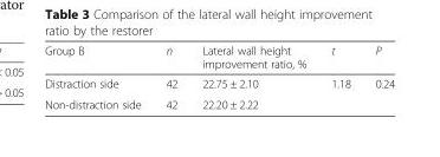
<table><thead><tr><td>Group B</td><td>n</td><td>Lateral wall height improvement ratio, %</td><td>t</td><td>P</td></tr></thead><tbody><tr><td>Distraction side</td><td>42</td><td>22.75 ± 2.10</td><td rowspan="2">1.18</td><td rowspan="2">0.24</td></tr><tr><td>Non-distraction side</td><td>42</td><td>22.20 ± 2.22</td></tr></tbody></table>